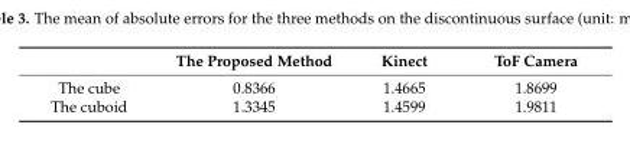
<table><thead><tr><td></td><td>The Proposed Method</td><td>Kinect</td><td>ToF Camera</td></tr></thead><tbody><tr><td>The cube</td><td>0.8366</td><td>1.4665</td><td>1.8699</td></tr><tr><td>The cuboid</td><td>1.3345</td><td>1.4599</td><td>1.9811</td></tr></tbody></table>